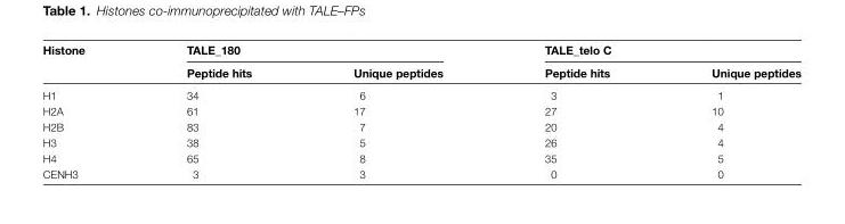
<table><thead><tr><td rowspan="2">Histone</td><td colspan="2">TALE_180</td><td colspan="2">TALE_telo C</td></tr><tr><td>Peptide hits</td><td>Unique peptides</td><td>Peptide hits</td><td>Unique peptides</td></tr></thead><tbody><tr><td>H1</td><td>34</td><td>6</td><td>3</td><td>1</td></tr><tr><td>H2A</td><td>61</td><td>17</td><td>27</td><td>10</td></tr><tr><td>H2B</td><td>83</td><td>7</td><td>20</td><td>4</td></tr><tr><td>H3</td><td>38</td><td>5</td><td>26</td><td>4</td></tr><tr><td>H4</td><td>65</td><td>8</td><td>35</td><td>5</td></tr><tr><td>CENH3</td><td>3</td><td>3</td><td>0</td><td>0</td></tr></tbody></table>